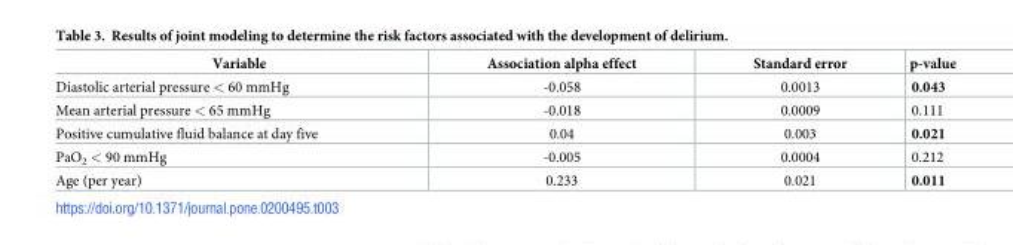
<table><thead><tr><td>Variable</td><td>Association alpha effect</td><td>Standard error</td><td>p-value</td></tr></thead><tbody><tr><td>Diastolic arterial pressure &lt; 60 mmHg</td><td>-0.058</td><td>0.0013</td><td>0.043</td></tr><tr><td>Mean arterial pressure &lt; 65 mmHg</td><td>-0.018</td><td>0.0009</td><td>0.111</td></tr><tr><td>Positive cumulative fluid balance at day five</td><td>0.04</td><td>0.003</td><td>0.021</td></tr><tr><td>PaO<sub>2</sub> &lt; 90 mmHg</td><td>-0.005</td><td>0.0004</td><td>0.212</td></tr><tr><td>Age (per year)</td><td>0.233</td><td>0.021</td><td>0.011</td></tr></tbody></table>